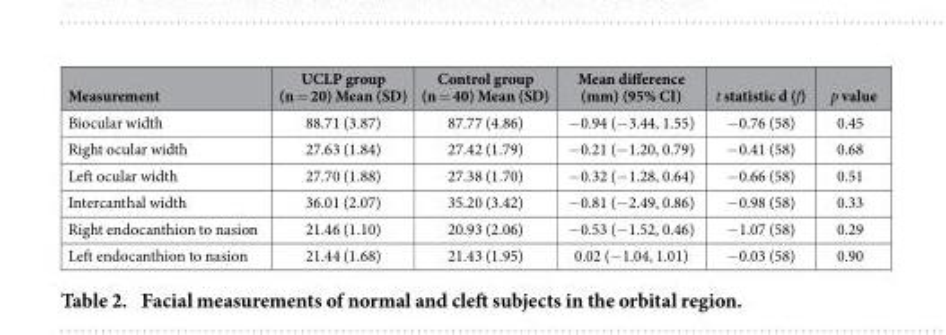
<table><thead><tr><td>Measurement</td><td>UCLP group (n = 20) Mean (SD)</td><td>Control group (n = 40) Mean (SD)</td><td>Mean difference (mm) (95% CI)</td><td>t statistic d (f)</td><td>p value</td></tr></thead><tbody><tr><td>Biocular width</td><td>88.71 (3.87)</td><td>87.77 (4.86)</td><td>− 0.94 (− 3.44, 1.55)</td><td>− 0.76 (58)</td><td>0.45</td></tr><tr><td>Right ocular width</td><td>27.63 (1.84)</td><td>27.42 (1.79)</td><td>− 0.21 (− 1.20, 0.79)</td><td>− 0.41 (58)</td><td>0.68</td></tr><tr><td>Left ocular width</td><td>27.70 (1.88)</td><td>27.38 (1.70)</td><td>− 0.32 (− 1.28, 0.64)</td><td>− 0.66 (58)</td><td>0.51</td></tr><tr><td>Intercanthal width</td><td>36.01 (2.07)</td><td>35.20 (3.42)</td><td>− 0.81 (− 2.49, 0.86)</td><td>− 0.98 (58)</td><td>0.33</td></tr><tr><td>Right endocanthion to nasion</td><td>21.46 (1.10)</td><td>20.93 (2.06)</td><td>− 0.53 (− 1.52, 0.46)</td><td>− 1.07 (58)</td><td>0.29</td></tr><tr><td>Left endocanthion to nasion</td><td>21.44 (1.68)</td><td>21.43 (1.95)</td><td>0.02 (− 1.04, 1.01)</td><td>− 0.03 (58)</td><td>0.90</td></tr></tbody></table>